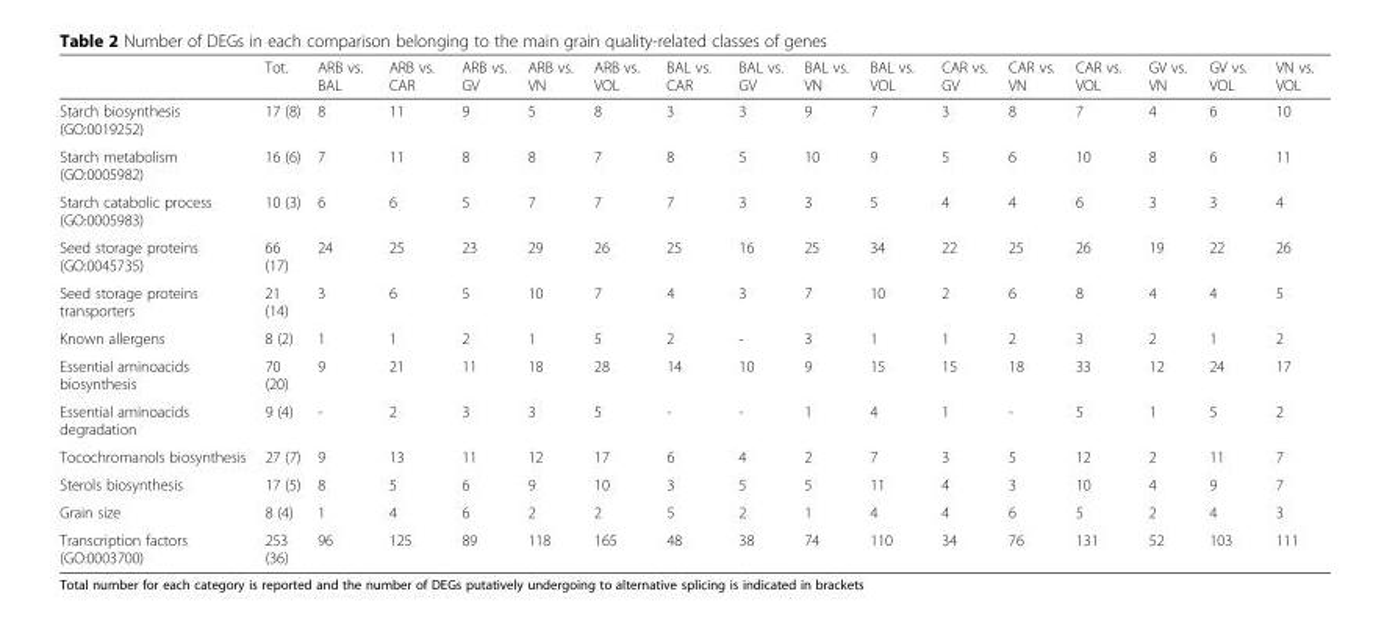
<table><thead><tr><td></td><td>Tot.</td><td>ARB vs. BAL</td><td>ARB vs. CAR</td><td>ARB vs. GV</td><td>ARB vs. VN</td><td>ARB vs. VOL</td><td>BAL vs. CAR</td><td>BAL vs. GV</td><td>BAL vs. VN</td><td>BAL vs. VOL</td><td>CAR vs. GV</td><td>CAR vs. VN</td><td>CAR vs. VOL</td><td>GV vs. VN</td><td>GV vs. VOL</td><td>VN vs. VOL</td></tr></thead><tbody><tr><td>Starch biosynthesis (GO:0019252)</td><td>17 (8)</td><td>8</td><td>11</td><td>9</td><td>5</td><td>8</td><td>3</td><td>3</td><td>9</td><td>7</td><td>3</td><td>8</td><td>7</td><td>4</td><td>6</td><td>10</td></tr><tr><td>Starch metabolism (GO:0005982)</td><td>16 (6)</td><td>7</td><td>11</td><td>8</td><td>8</td><td>7</td><td>8</td><td>5</td><td>10</td><td>9</td><td>5</td><td>6</td><td>10</td><td>8</td><td>6</td><td>11</td></tr><tr><td>Starch catabolic process (GO:0005983)</td><td>10 (3)</td><td>6</td><td>6</td><td>5</td><td>7</td><td>7</td><td>7</td><td>3</td><td>3</td><td>5</td><td>4</td><td>4</td><td>6</td><td>3</td><td>3</td><td>4</td></tr><tr><td>Seed storage proteins (GO:0045735)</td><td>66 (17)</td><td>24</td><td>25</td><td>23</td><td>29</td><td>26</td><td>25</td><td>16</td><td>25</td><td>34</td><td>22</td><td>25</td><td>26</td><td>19</td><td>22</td><td>26</td></tr><tr><td>Seed storage proteins transporters</td><td>21 (14)</td><td>3</td><td>6</td><td>5</td><td>10</td><td>7</td><td>4</td><td>3</td><td>7</td><td>10</td><td>2</td><td>6</td><td>8</td><td>4</td><td>4</td><td>5</td></tr><tr><td>Known allergens</td><td>8 (2)</td><td>1</td><td>1</td><td>2</td><td>1</td><td>5</td><td>2</td><td>-</td><td>3</td><td>1</td><td>1</td><td>2</td><td>3</td><td>2</td><td>1</td><td>2</td></tr><tr><td>Essential aminoacids biosynthesis</td><td>70 (20)</td><td>9</td><td>21</td><td>11</td><td>18</td><td>28</td><td>14</td><td>10</td><td>9</td><td>15</td><td>15</td><td>18</td><td>33</td><td>12</td><td>24</td><td>17</td></tr><tr><td>Essential aminoacids degradation</td><td>9 (4)</td><td>-</td><td>2</td><td>3</td><td>3</td><td>5</td><td>-</td><td>-</td><td>1</td><td>4</td><td>1</td><td>-</td><td>5</td><td>1</td><td>5</td><td>2</td></tr><tr><td>Tocochromanols biosynthesis</td><td>27 (7)</td><td>9</td><td>13</td><td>11</td><td>12</td><td>17</td><td>6</td><td>4</td><td>2</td><td>7</td><td>3</td><td>5</td><td>12</td><td>2</td><td>11</td><td>7</td></tr><tr><td>Sterols biosynthesis</td><td>17 (5)</td><td>8</td><td>5</td><td>6</td><td>9</td><td>10</td><td>3</td><td>5</td><td>5</td><td>11</td><td>4</td><td>3</td><td>10</td><td>4</td><td>9</td><td>7</td></tr><tr><td>Grain size</td><td>8 (4)</td><td>1</td><td>4</td><td>6</td><td>2</td><td>2</td><td>5</td><td>2</td><td>1</td><td>4</td><td>4</td><td>6</td><td>5</td><td>2</td><td>4</td><td>3</td></tr><tr><td>Transcription factors (GO:0003700)</td><td>253 (36)</td><td>96</td><td>125</td><td>89</td><td>118</td><td>165</td><td>48</td><td>38</td><td>74</td><td>110</td><td>34</td><td>76</td><td>131</td><td>52</td><td>103</td><td>111</td></tr></tbody></table>